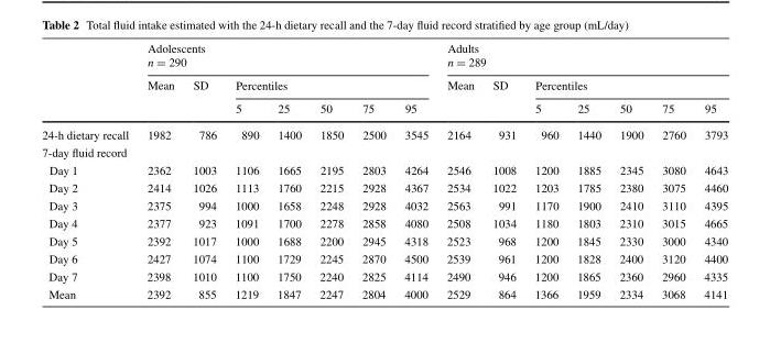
<table><thead><tr><td rowspan="3"></td><td colspan="7">Adolescents n = 290</td><td colspan="7">Adults n = 289</td></tr><tr><td rowspan="2">Mean</td><td rowspan="2">SD</td><td colspan="5">Percentiles</td><td rowspan="2">Mean</td><td rowspan="2">SD</td><td colspan="5">Percentiles</td></tr><tr><td>5</td><td>25</td><td>50</td><td>75</td><td>95</td><td>5</td><td>25</td><td>50</td><td>75</td><td>95</td></tr></thead><tbody><tr><td>24-h dietary recall</td><td>1982</td><td>786</td><td>890</td><td>1400</td><td>1850</td><td>2500</td><td>3545</td><td>2164</td><td>931</td><td>960</td><td>1440</td><td>1900</td><td>2760</td><td>3793</td></tr><tr><td colspan="15">7-day fluid record</td></tr><tr><td>Day 1</td><td>2362</td><td>1003</td><td>1106</td><td>1665</td><td>2195</td><td>2803</td><td>4264</td><td>2546</td><td>1008</td><td>1200</td><td>1885</td><td>2345</td><td>3080</td><td>4643</td></tr><tr><td>Day 2</td><td>2414</td><td>1026</td><td>1113</td><td>1760</td><td>2215</td><td>2928</td><td>4367</td><td>2534</td><td>1022</td><td>1203</td><td>1785</td><td>2380</td><td>3075</td><td>4460</td></tr><tr><td>Day 3</td><td>2375</td><td>994</td><td>1000</td><td>1658</td><td>2248</td><td>2928</td><td>4032</td><td>2563</td><td>991</td><td>1170</td><td>1900</td><td>2410</td><td>3110</td><td>4395</td></tr><tr><td>Day 4</td><td>2377</td><td>923</td><td>1091</td><td>1700</td><td>2278</td><td>2858</td><td>4080</td><td>2508</td><td>1034</td><td>1180</td><td>1803</td><td>2310</td><td>3015</td><td>4665</td></tr><tr><td>Day 5</td><td>2392</td><td>1017</td><td>1000</td><td>1688</td><td>2200</td><td>2945</td><td>4318</td><td>2523</td><td>968</td><td>1200</td><td>1845</td><td>2330</td><td>3000</td><td>4340</td></tr><tr><td>Day 6</td><td>2427</td><td>1074</td><td>1100</td><td>1729</td><td>2245</td><td>2870</td><td>4500</td><td>2539</td><td>961</td><td>1200</td><td>1828</td><td>2400</td><td>3120</td><td>4400</td></tr><tr><td>Day 7</td><td>2398</td><td>1010</td><td>1100</td><td>1750</td><td>2240</td><td>2825</td><td>4114</td><td>2490</td><td>946</td><td>1200</td><td>1865</td><td>2360</td><td>2960</td><td>4335</td></tr><tr><td>Mean</td><td>2392</td><td>855</td><td>1219</td><td>1847</td><td>2247</td><td>2804</td><td>4000</td><td>2529</td><td>864</td><td>1366</td><td>1959</td><td>2334</td><td>3068</td><td>4141</td></tr></tbody></table>